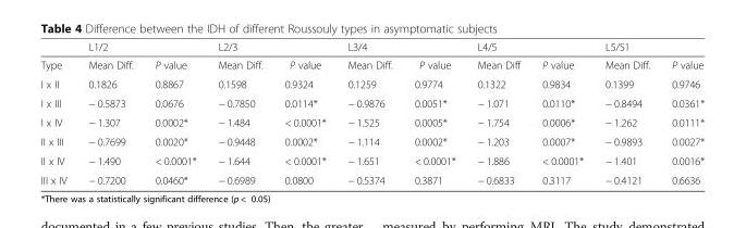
<table><thead><tr><td rowspan="2">Type</td><td colspan="2">L1/2</td><td colspan="2">L2/3</td><td colspan="2">L3/4</td><td colspan="2">L4/5</td><td colspan="2">L5/S1</td></tr><tr><td>Mean Diff.</td><td>P value</td><td>Mean Diff.</td><td>P value</td><td>Mean Diff.</td><td>P value</td><td>Mean Diff</td><td>P value</td><td>Mean Diff.</td><td>P value</td></tr></thead><tbody><tr><td>I x II</td><td>0.1826</td><td>0.8867</td><td>0.1598</td><td>0.9324</td><td>0.1259</td><td>0.9774</td><td>0.1322</td><td>0.9834</td><td>0.1399</td><td>0.9746</td></tr><tr><td>I x III</td><td>− 0.5873</td><td>0.0676</td><td>− 0.7850</td><td>0.0114*</td><td>− 0.9876</td><td>0.0051*</td><td>− 1.071</td><td>0.0110*</td><td>− 0.8494</td><td>0.0361*</td></tr><tr><td>I x IV</td><td>− 1.307</td><td>0.0002*</td><td>− 1.484</td><td>&lt; 0.0001*</td><td>− 1.525</td><td>0.0005*</td><td>− 1.754</td><td>0.0006*</td><td>− 1.262</td><td>0.0111*</td></tr><tr><td>II x III</td><td>− 0.7699</td><td>0.0020*</td><td>− 0.9448</td><td>0.0002*</td><td>− 1.114</td><td>0.0002*</td><td>− 1.203</td><td>0.0007*</td><td>− 0.9893</td><td>0.0027*</td></tr><tr><td>II x IV</td><td>− 1.490</td><td>&lt; 0.0001*</td><td>− 1.644</td><td>&lt; 0.0001*</td><td>− 1.651</td><td>&lt; 0.0001*</td><td>− 1.886</td><td>&lt; 0.0001*</td><td>− 1.401</td><td>0.0016*</td></tr><tr><td>III x IV</td><td>− 0.7200</td><td>0.0460*</td><td>− 0.6989</td><td>0.0800</td><td>− 0.5374</td><td>0.3871</td><td>− 0.6833</td><td>0.3117</td><td>− 0.4121</td><td>0.6636</td></tr></tbody></table>